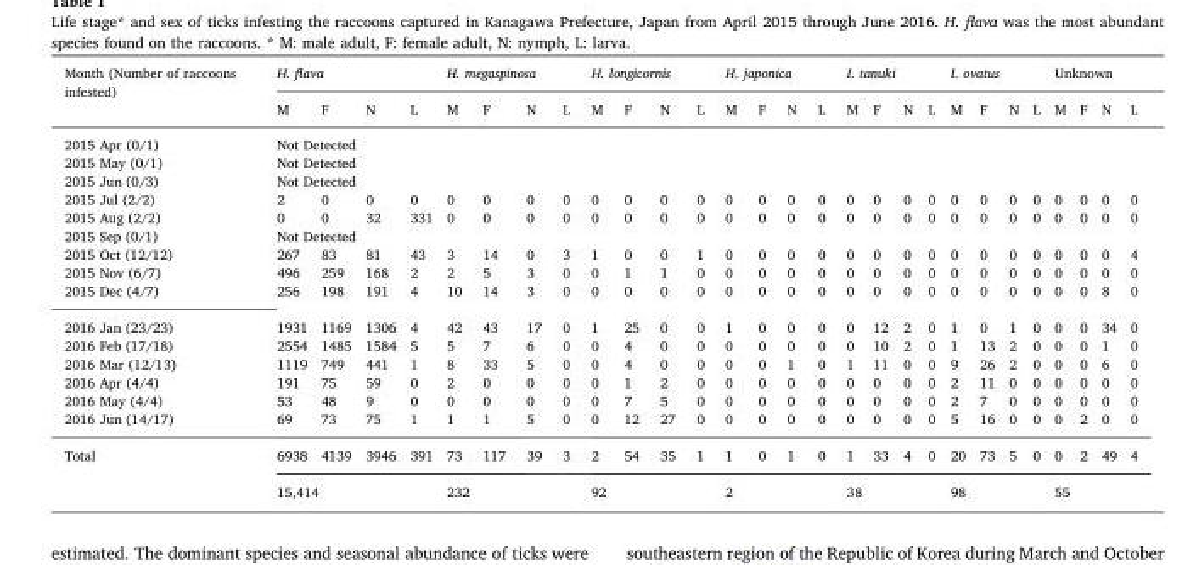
<table><thead><tr><td rowspan="2">Month (Number of raccoons infested)</td><td colspan="4">H. flava</td><td colspan="4">H. megaspinosa</td><td colspan="4">H. longicornis</td><td colspan="4">H. japonica</td><td colspan="4">I. tanuki</td><td colspan="4">I. ovatus</td><td colspan="4">Unknown</td></tr><tr><td>M</td><td>F</td><td>N</td><td>L</td><td>M</td><td>F</td><td>N</td><td>L</td><td>M</td><td>F</td><td>N</td><td>L</td><td>M</td><td>F</td><td>N</td><td>L</td><td>M</td><td>F</td><td>N</td><td>L</td><td>M</td><td>F</td><td>N</td><td>L</td><td>M</td><td>F</td><td>N</td><td>L</td></tr></thead><tbody><tr><td>2015 Apr (0/1)</td><td colspan="28">Not Detected</td></tr><tr><td>2015 May (0/1)</td><td colspan="28">Not Detected</td></tr><tr><td>2015 Jun (0/3)</td><td colspan="28">Not Detected</td></tr><tr><td>2015 Jul (2/2)</td><td>2</td><td>0</td><td>0</td><td>0</td><td>0</td><td>0</td><td>0</td><td>0</td><td>0</td><td>0</td><td>0</td><td>0</td><td>0</td><td>0</td><td>0</td><td>0</td><td>0</td><td>0</td><td>0</td><td>0</td><td>0</td><td>0</td><td>0</td><td>0</td><td>0</td><td>0</td><td>0</td><td>0</td></tr><tr><td>2015 Aug (2/2)</td><td>0</td><td>0</td><td>32</td><td>331</td><td>0</td><td>0</td><td>0</td><td>0</td><td>0</td><td>0</td><td>0</td><td>0</td><td>0</td><td>0</td><td>0</td><td>0</td><td>0</td><td>0</td><td>0</td><td>0</td><td>0</td><td>0</td><td>0</td><td>0</td><td>0</td><td>0</td><td>0</td><td>0</td></tr><tr><td>2015 Sep (0/1)</td><td colspan="28">Not Detected</td></tr><tr><td>2015 Oct (12/12)</td><td>267</td><td>83</td><td>81</td><td>43</td><td>3</td><td>14</td><td>0</td><td>3</td><td>1</td><td>0</td><td>0</td><td>1</td><td>0</td><td>0</td><td>0</td><td>0</td><td>0</td><td>0</td><td>0</td><td>0</td><td>0</td><td>0</td><td>0</td><td>0</td><td>0</td><td>0</td><td>0</td><td>4</td></tr><tr><td>2015 Nov (6/7)</td><td>496</td><td>259</td><td>168</td><td>2</td><td>2</td><td>5</td><td>3</td><td>0</td><td>0</td><td>1</td><td>1</td><td>0</td><td>0</td><td>0</td><td>0</td><td>0</td><td>0</td><td>0</td><td>0</td><td>0</td><td>0</td><td>0</td><td>0</td><td>0</td><td>0</td><td>0</td><td>0</td><td>0</td></tr><tr><td>2015 Dec (4/7)</td><td>256</td><td>198</td><td>191</td><td>4</td><td>10</td><td>14</td><td>3</td><td>0</td><td>0</td><td>0</td><td>0</td><td>0</td><td>0</td><td>0</td><td>0</td><td>0</td><td>0</td><td>0</td><td>0</td><td>0</td><td>0</td><td>0</td><td>0</td><td>0</td><td>0</td><td>0</td><td>8</td><td>0</td></tr><tr><td>2016 Jan (23/23)</td><td>1931</td><td>1169</td><td>1306</td><td>4</td><td>42</td><td>43</td><td>17</td><td>0</td><td>1</td><td>25</td><td>0</td><td>0</td><td>1</td><td>0</td><td>0</td><td>0</td><td>0</td><td>12</td><td>2</td><td>0</td><td>1</td><td>0</td><td>1</td><td>0</td><td>0</td><td>0</td><td>34</td><td>0</td></tr><tr><td>2016 Feb (17/18)</td><td>2554</td><td>1485</td><td>1584</td><td>5</td><td>5</td><td>7</td><td>6</td><td>0</td><td>0</td><td>4</td><td>0</td><td>0</td><td>0</td><td>0</td><td>0</td><td>0</td><td>0</td><td>10</td><td>2</td><td>0</td><td>1</td><td>13</td><td>2</td><td>0</td><td>0</td><td>0</td><td>1</td><td>0</td></tr><tr><td>2016 Mar (12/13)</td><td>1119</td><td>749</td><td>441</td><td>1</td><td>8</td><td>33</td><td>5</td><td>0</td><td>0</td><td>4</td><td>0</td><td>0</td><td>0</td><td>0</td><td>1</td><td>0</td><td>1</td><td>11</td><td>0</td><td>0</td><td>9</td><td>26</td><td>2</td><td>0</td><td>0</td><td>0</td><td>6</td><td>0</td></tr><tr><td>2016 Apr (4/4)</td><td>191</td><td>75</td><td>59</td><td>0</td><td>2</td><td>0</td><td>0</td><td>0</td><td>0</td><td>1</td><td>2</td><td>0</td><td>0</td><td>0</td><td>0</td><td>0</td><td>0</td><td>0</td><td>0</td><td>0</td><td>2</td><td>11</td><td>0</td><td>0</td><td>0</td><td>0</td><td>0</td><td>0</td></tr><tr><td>2016 May (4/4)</td><td>53</td><td>48</td><td>9</td><td>0</td><td>0</td><td>0</td><td>0</td><td>0</td><td>0</td><td>7</td><td>5</td><td>0</td><td>0</td><td>0</td><td>0</td><td>0</td><td>0</td><td>0</td><td>0</td><td>0</td><td>2</td><td>7</td><td>0</td><td>0</td><td>0</td><td>0</td><td>0</td><td>0</td></tr><tr><td>2016 Jun (14/17)</td><td>69</td><td>73</td><td>75</td><td>1</td><td>1</td><td>1</td><td>5</td><td>0</td><td>0</td><td>12</td><td>27</td><td>0</td><td>0</td><td>0</td><td>0</td><td>0</td><td>0</td><td>0</td><td>0</td><td>0</td><td>5</td><td>16</td><td>0</td><td>0</td><td>0</td><td>2</td><td>0</td><td>0</td></tr><tr><td rowspan="2">Total</td><td>6938</td><td>4139</td><td>3946</td><td>391</td><td>73</td><td>117</td><td>39</td><td>3</td><td>2</td><td>54</td><td>35</td><td>1</td><td>1</td><td>0</td><td>1</td><td>0</td><td>1</td><td>33</td><td>4</td><td>0</td><td>20</td><td>73</td><td>5</td><td>0</td><td>0</td><td>2</td><td>49</td><td>4</td></tr><tr><td colspan="4">15,414</td><td colspan="4">232</td><td colspan="4">92</td><td colspan="4">2</td><td colspan="4">38</td><td colspan="4">98</td><td colspan="4">55</td></tr></tbody></table>